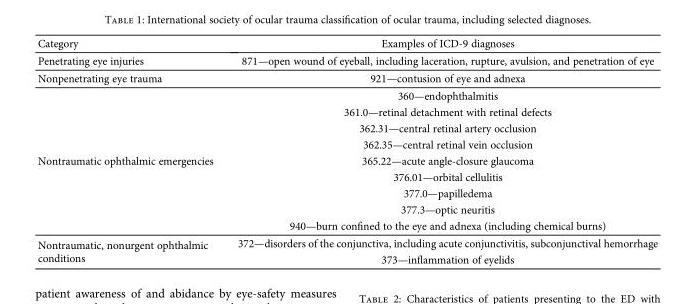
<table><thead><tr><td>Category</td><td>Examples of ICD-9 diagnoses</td></tr></thead><tbody><tr><td>Penetrating eye injuries</td><td>871—open wound of eyeball, including laceration, rupture, avulsion, and penetration of eye</td></tr><tr><td>Nonpenetrating eye trauma</td><td>921—contusion of eye and adnexa</td></tr><tr><td rowspan="9">Nontraumatic ophthalmic emergencies</td><td>360—endophthalmitis</td></tr><tr><td>361.0—retinal detachment with retinal defects</td></tr><tr><td>362.31—central retinal artery occlusion</td></tr><tr><td>362.35—central retinal vein occlusion</td></tr><tr><td>365.22—acute angle-closure glaucoma</td></tr><tr><td>376.01—orbital cellulitis</td></tr><tr><td>377.0—papilledema</td></tr><tr><td>377.3—optic neuritis</td></tr><tr><td>940—burn confined to the eye and adnexa (including chemical burns)</td></tr><tr><td rowspan="2">Nontraumatic, nonurgent ophthalmic conditions</td><td>372—disorders of the conjunctiva, including acute conjunctivitis, subconjunctival hemorrhage</td></tr><tr><td>373—inflammation of eyelids</td></tr></tbody></table>